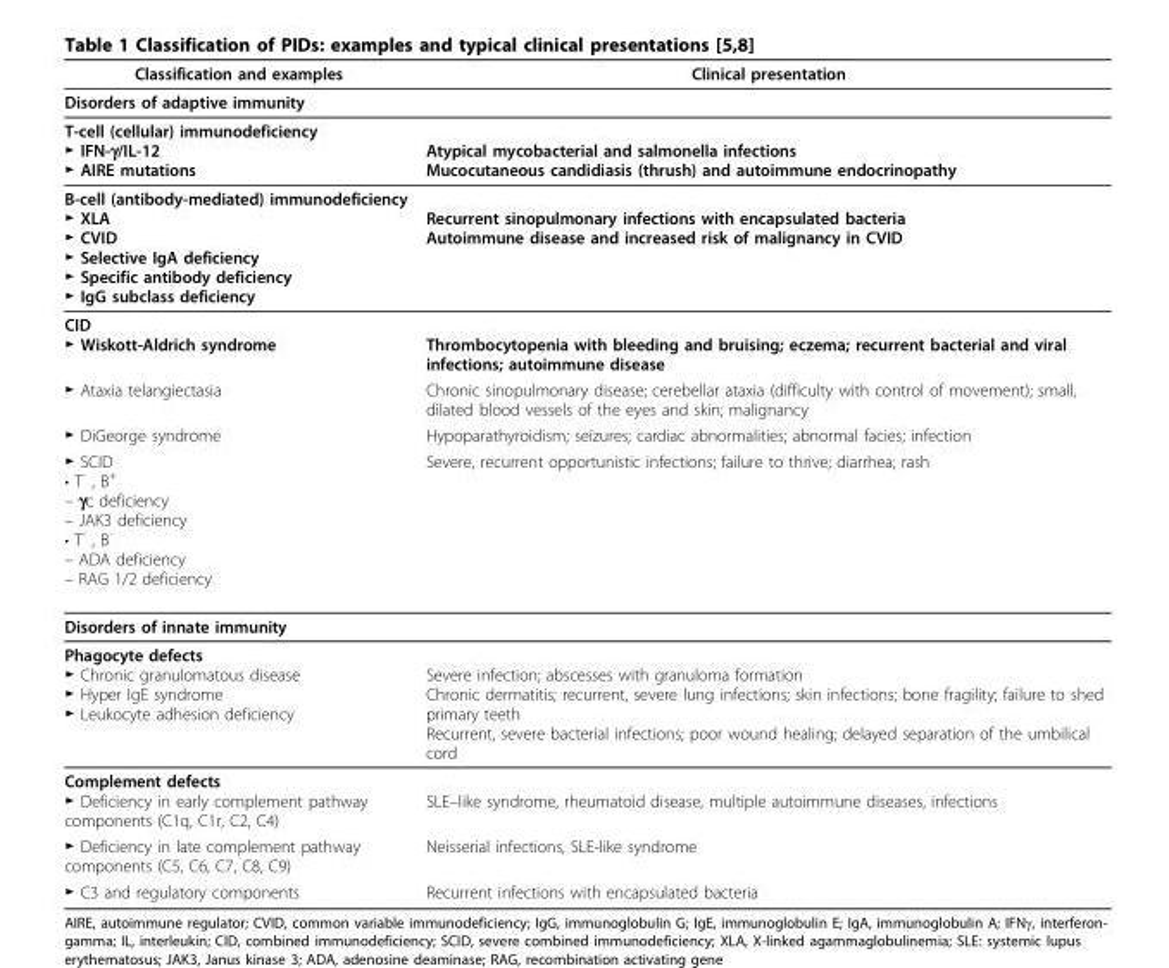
<table><thead><tr><td>Classification and examples</td><td>Clinical presentation</td></tr></thead><tbody><tr><td colspan="2">Disorders of adaptive immunity</td></tr><tr><td>T-cell (cellular) immunodeficiency ► IFN-γ/IL-12 ► AIRE mutations</td><td>Atypical mycobacterial and salmonella infections Mucocutaneous candidiasis (thrush) and autoimmune endocrinopathy</td></tr><tr><td>B-cell (antibody-mediated) immunodeficiency ► XLA ► CVID ► Selective IgA deficiency ► Specific antibody deficiency ► IgG subclass deficiency</td><td>Recurrent sinopulmonary infections with encapsulated bacteria Autoimmune disease and increased risk of malignancy in CVID</td></tr><tr><td>CID ► Wiskott-Aldrich syndrome</td><td>Thrombocytopenia with bleeding and bruising; eczema; recurrent bacterial and viral infections; autoimmune disease</td></tr><tr><td>► Ataxia telangiectasia</td><td>Chronic sinopulmonary disease; cerebellar ataxia (difficulty with control of movement); small, dilated blood vessels of the eyes and skin; malignancy</td></tr><tr><td>► DiGeorge syndrome</td><td>Hypoparathyroidism; seizures; cardiac abnormalities; abnormal facies; infection</td></tr><tr><td>► SCID • T<sup>-</sup> , B<sup>+</sup> – γc deficiency – JAK3 deficiency • T<sup>-</sup> , B<sup>-</sup> – ADA deficiency – RAG 1/2 deficiency</td><td>Severe, recurrent opportunistic infections; failure to thrive; diarrhea; rash</td></tr><tr><td colspan="2">Disorders of innate immunity</td></tr><tr><td>Phagocyte defects ► Chronic granulomatous disease ► Hyper IgE syndrome ► Leukocyte adhesion deficiency</td><td>Severe infection; abscesses with granuloma formation Chronic dermatitis; recurrent, severe lung infections; skin infections; bone fragility; failure to shed primary teeth Recurrent, severe bacterial infections; poor wound healing; delayed separation of the umbilical cord</td></tr><tr><td>Complement defects ► Deficiency in early complement pathway components (C1q, C1r, C2, C4)</td><td>SLE–like syndrome, rheumatoid disease, multiple autoimmune diseases, infections</td></tr><tr><td>► Deficiency in late complement pathway components (C5, C6, C7, C8, C9)</td><td>Neisserial infections, SLE-like syndrome</td></tr><tr><td>► C3 and regulatory components</td><td>Recurrent infections with encapsulated bacteria</td></tr></tbody></table>